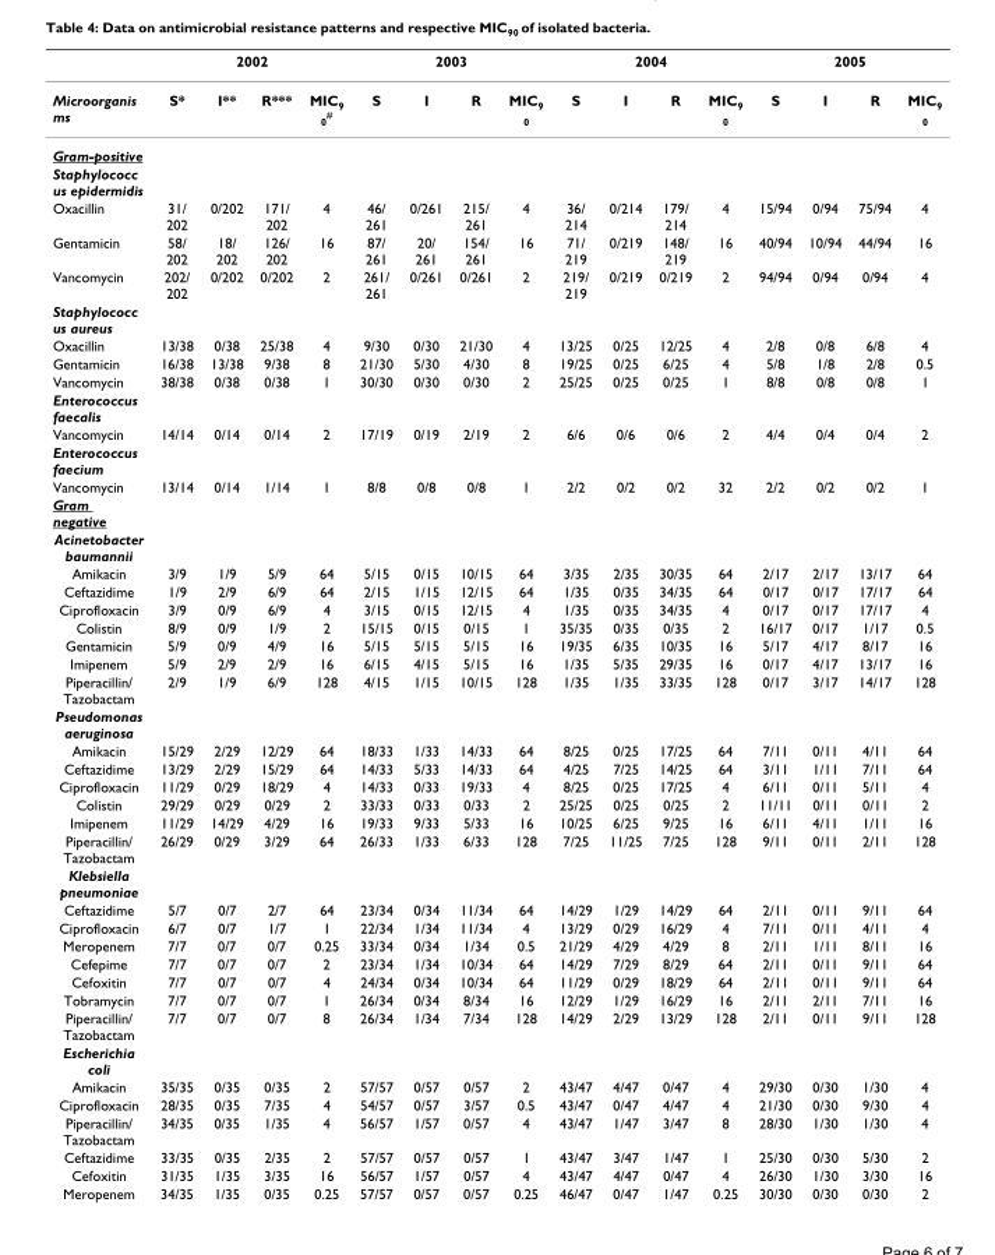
<table><thead><tr><td rowspan="2">Microorganis ms</td><td colspan="4">2002</td><td colspan="4">2003</td><td colspan="4">2004</td><td colspan="4">2005</td></tr><tr><td>S*</td><td>I**</td><td>R***</td><td>MIC<sub>9 0</sub><sup>#</sup></td><td>S</td><td>I</td><td>R</td><td>MIC<sub>9 0</sub></td><td>S</td><td>I</td><td>R</td><td>MIC<sub>9 0</sub></td><td>S</td><td>I</td><td>R</td><td>MIC<sub>9 0</sub></td></tr></thead><tbody><tr><td colspan="17">Gram-positive</td></tr><tr><td colspan="17">Staphylococc us epidermidis</td></tr><tr><td>Oxacillin</td><td>31/ 202</td><td>0/202</td><td>171/ 202</td><td>4</td><td>46/ 261</td><td>0/261</td><td>215/ 261</td><td>4</td><td>36/ 214</td><td>0/214</td><td>179/ 214</td><td>4</td><td>15/94</td><td>0/94</td><td>75/94</td><td>4</td></tr><tr><td>Gentamicin</td><td>58/ 202</td><td>18/ 202</td><td>126/ 202</td><td>16</td><td>87/ 261</td><td>20/ 261</td><td>154/ 261</td><td>16</td><td>71/ 219</td><td>0/219</td><td>148/ 219</td><td>16</td><td>40/94</td><td>10/94</td><td>44/94</td><td>16</td></tr><tr><td>Vancomycin</td><td>202/ 202</td><td>0/202</td><td>0/202</td><td>2</td><td>261/ 261</td><td>0/261</td><td>0/261</td><td>2</td><td>219/ 219</td><td>0/219</td><td>0/219</td><td>2</td><td>94/94</td><td>0/94</td><td>0/94</td><td>4</td></tr><tr><td colspan="17">Staphylococc us aureus</td></tr><tr><td>Oxacillin</td><td>13/38</td><td>0/38</td><td>25/38</td><td>4</td><td>9/30</td><td>0/30</td><td>21/30</td><td>4</td><td>13/25</td><td>0/25</td><td>12/25</td><td>4</td><td>2/8</td><td>0/8</td><td>6/8</td><td>4</td></tr><tr><td>Gentamicin</td><td>16/38</td><td>13/38</td><td>9/38</td><td>8</td><td>21/30</td><td>5/30</td><td>4/30</td><td>8</td><td>19/25</td><td>0/25</td><td>6/25</td><td>4</td><td>5/8</td><td>1/8</td><td>2/8</td><td>0.5</td></tr><tr><td>Vancomycin</td><td>38/38</td><td>0/38</td><td>0/38</td><td>1</td><td>30/30</td><td>0/30</td><td>0/30</td><td>2</td><td>25/25</td><td>0/25</td><td>0/25</td><td>1</td><td>8/8</td><td>0/8</td><td>0/8</td><td>1</td></tr><tr><td colspan="17">Enterococcus faecalis</td></tr><tr><td>Vancomycin</td><td>14/14</td><td>0/14</td><td>0/14</td><td>2</td><td>17/19</td><td>0/19</td><td>2/19</td><td>2</td><td>6/6</td><td>0/6</td><td>0/6</td><td>2</td><td>4/4</td><td>0/4</td><td>0/4</td><td>2</td></tr><tr><td colspan="17">Enterococcus faecium</td></tr><tr><td>Vancomycin</td><td>13/14</td><td>0/14</td><td>1/14</td><td>1</td><td>8/8</td><td>0/8</td><td>0/8</td><td>1</td><td>2/2</td><td>0/2</td><td>0/2</td><td>32</td><td>2/2</td><td>0/2</td><td>0/2</td><td>1</td></tr><tr><td colspan="17">Gram negative</td></tr><tr><td colspan="17">Acinetobacter baumannii</td></tr><tr><td>Amikacin</td><td>3/9</td><td>1/9</td><td>5/9</td><td>64</td><td>5/15</td><td>0/15</td><td>10/15</td><td>64</td><td>3/35</td><td>2/35</td><td>30/35</td><td>64</td><td>2/17</td><td>2/17</td><td>13/17</td><td>64</td></tr><tr><td>Ceftazidime</td><td>1/9</td><td>2/9</td><td>6/9</td><td>64</td><td>2/15</td><td>1/15</td><td>12/15</td><td>64</td><td>1/35</td><td>0/35</td><td>34/35</td><td>64</td><td>0/17</td><td>0/17</td><td>17/17</td><td>64</td></tr><tr><td>Ciprofloxacin</td><td>3/9</td><td>0/9</td><td>6/9</td><td>4</td><td>3/15</td><td>0/15</td><td>12/15</td><td>4</td><td>1/35</td><td>0/35</td><td>34/35</td><td>4</td><td>0/17</td><td>0/17</td><td>17/17</td><td>4</td></tr><tr><td>Colistin</td><td>8/9</td><td>0/9</td><td>1/9</td><td>2</td><td>15/15</td><td>0/15</td><td>0/15</td><td>1</td><td>35/35</td><td>0/35</td><td>0/35</td><td>2</td><td>16/17</td><td>0/17</td><td>1/17</td><td>0.5</td></tr><tr><td>Gentamicin</td><td>5/9</td><td>0/9</td><td>4/9</td><td>16</td><td>5/15</td><td>5/15</td><td>5/15</td><td>16</td><td>19/35</td><td>6/35</td><td>10/35</td><td>16</td><td>5/17</td><td>4/17</td><td>8/17</td><td>16</td></tr><tr><td>Imipenem</td><td>5/9</td><td>2/9</td><td>2/9</td><td>16</td><td>6/15</td><td>4/15</td><td>5/15</td><td>16</td><td>1/35</td><td>5/35</td><td>29/35</td><td>16</td><td>0/17</td><td>4/17</td><td>13/17</td><td>16</td></tr><tr><td>Piperacillin/ Tazobactam</td><td>2/9</td><td>1/9</td><td>6/9</td><td>128</td><td>4/15</td><td>1/15</td><td>10/15</td><td>128</td><td>1/35</td><td>1/35</td><td>33/35</td><td>128</td><td>0/17</td><td>3/17</td><td>14/17</td><td>128</td></tr><tr><td colspan="17">Pseudomonas aeruginosa</td></tr><tr><td>Amikacin</td><td>15/29</td><td>2/29</td><td>12/29</td><td>64</td><td>18/33</td><td>1/33</td><td>14/33</td><td>64</td><td>8/25</td><td>0/25</td><td>17/25</td><td>64</td><td>7/11</td><td>0/11</td><td>4/11</td><td>64</td></tr><tr><td>Ceftazidime</td><td>13/29</td><td>2/29</td><td>15/29</td><td>64</td><td>14/33</td><td>5/33</td><td>14/33</td><td>64</td><td>4/25</td><td>7/25</td><td>14/25</td><td>64</td><td>3/11</td><td>1/11</td><td>7/11</td><td>64</td></tr><tr><td>Ciprofloxacin</td><td>11/29</td><td>0/29</td><td>18/29</td><td>4</td><td>14/33</td><td>0/33</td><td>19/33</td><td>4</td><td>8/25</td><td>0/25</td><td>17/25</td><td>4</td><td>6/11</td><td>0/11</td><td>5/11</td><td>4</td></tr><tr><td>Colistin</td><td>29/29</td><td>0/29</td><td>0/29</td><td>2</td><td>33/33</td><td>0/33</td><td>0/33</td><td>2</td><td>25/25</td><td>0/25</td><td>0/25</td><td>2</td><td>11/11</td><td>0/11</td><td>0/11</td><td>2</td></tr><tr><td>Imipenem</td><td>11/29</td><td>14/29</td><td>4/29</td><td>16</td><td>19/33</td><td>9/33</td><td>5/33</td><td>16</td><td>10/25</td><td>6/25</td><td>9/25</td><td>16</td><td>6/11</td><td>4/11</td><td>1/11</td><td>16</td></tr><tr><td>Piperacillin/ Tazobactam</td><td>26/29</td><td>0/29</td><td>3/29</td><td>64</td><td>26/33</td><td>1/33</td><td>6/33</td><td>128</td><td>7/25</td><td>11/25</td><td>7/25</td><td>128</td><td>9/11</td><td>0/11</td><td>2/11</td><td>128</td></tr><tr><td colspan="17">Klebsiella pneumoniae</td></tr><tr><td>Ceftazidime</td><td>5/7</td><td>0/7</td><td>2/7</td><td>64</td><td>23/34</td><td>0/34</td><td>11/34</td><td>64</td><td>14/29</td><td>1/29</td><td>14/29</td><td>64</td><td>2/11</td><td>0/11</td><td>9/11</td><td>64</td></tr><tr><td>Ciprofloxacin</td><td>6/7</td><td>0/7</td><td>1/7</td><td>1</td><td>22/34</td><td>1/34</td><td>11/34</td><td>4</td><td>13/29</td><td>0/29</td><td>16/29</td><td>4</td><td>7/11</td><td>0/11</td><td>4/11</td><td>4</td></tr><tr><td>Meropenem</td><td>7/7</td><td>0/7</td><td>0/7</td><td>0.25</td><td>33/34</td><td>0/34</td><td>1/34</td><td>0.5</td><td>21/29</td><td>4/29</td><td>4/29</td><td>8</td><td>2/11</td><td>1/11</td><td>8/11</td><td>16</td></tr><tr><td>Cefepime</td><td>7/7</td><td>0/7</td><td>0/7</td><td>2</td><td>23/34</td><td>1/34</td><td>10/34</td><td>64</td><td>14/29</td><td>7/29</td><td>8/29</td><td>64</td><td>2/11</td><td>0/11</td><td>9/11</td><td>64</td></tr><tr><td>Cefoxitin</td><td>7/7</td><td>0/7</td><td>0/7</td><td>4</td><td>24/34</td><td>0/34</td><td>10/34</td><td>64</td><td>11/29</td><td>0/29</td><td>18/29</td><td>64</td><td>2/11</td><td>0/11</td><td>9/11</td><td>64</td></tr><tr><td>Tobramycin</td><td>7/7</td><td>0/7</td><td>0/7</td><td>1</td><td>26/34</td><td>0/34</td><td>8/34</td><td>16</td><td>12/29</td><td>1/29</td><td>16/29</td><td>16</td><td>2/11</td><td>2/11</td><td>7/11</td><td>16</td></tr><tr><td>Piperacillin/ Tazobactam</td><td>7/7</td><td>0/7</td><td>0/7</td><td>8</td><td>26/34</td><td>1/34</td><td>7/34</td><td>128</td><td>14/29</td><td>2/29</td><td>13/29</td><td>128</td><td>2/11</td><td>0/11</td><td>9/11</td><td>128</td></tr><tr><td colspan="17">Escherichia coli</td></tr><tr><td>Amikacin</td><td>35/35</td><td>0/35</td><td>0/35</td><td>2</td><td>57/57</td><td>0/57</td><td>0/57</td><td>2</td><td>43/47</td><td>4/47</td><td>0/47</td><td>4</td><td>29/30</td><td>0/30</td><td>1/30</td><td>4</td></tr><tr><td>Ciprofloxacin</td><td>28/35</td><td>0/35</td><td>7/35</td><td>4</td><td>54/57</td><td>0/57</td><td>3/57</td><td>0.5</td><td>43/47</td><td>0/47</td><td>4/47</td><td>4</td><td>21/30</td><td>0/30</td><td>9/30</td><td>4</td></tr><tr><td>Piperacillin/ Tazobactam</td><td>34/35</td><td>0/35</td><td>1/35</td><td>4</td><td>56/57</td><td>1/57</td><td>0/57</td><td>4</td><td>43/47</td><td>1/47</td><td>3/47</td><td>8</td><td>28/30</td><td>1/30</td><td>1/30</td><td>4</td></tr><tr><td>Ceftazidime</td><td>33/35</td><td>0/35</td><td>2/35</td><td>2</td><td>57/57</td><td>0/57</td><td>0/57</td><td>1</td><td>43/47</td><td>3/47</td><td>1/47</td><td>1</td><td>25/30</td><td>0/30</td><td>5/30</td><td>2</td></tr><tr><td>Cefoxitin</td><td>31/35</td><td>1/35</td><td>3/35</td><td>16</td><td>56/57</td><td>1/57</td><td>0/57</td><td>4</td><td>43/47</td><td>4/47</td><td>0/47</td><td>4</td><td>26/30</td><td>1/30</td><td>3/30</td><td>16</td></tr><tr><td>Meropenem</td><td>34/35</td><td>1/35</td><td>0/35</td><td>0.25</td><td>57/57</td><td>0/57</td><td>0/57</td><td>0.25</td><td>46/47</td><td>0/47</td><td>1/47</td><td>0.25</td><td>30/30</td><td>0/30</td><td>0/30</td><td>2</td></tr></tbody></table>